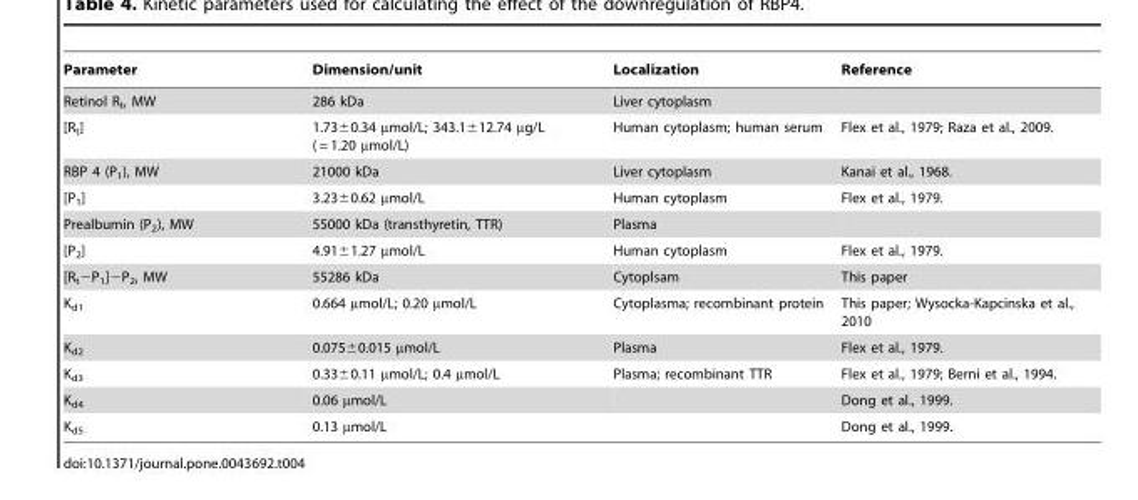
<table><thead><tr><td>Parameter</td><td>Dimension/unit</td><td>Localization</td><td>Reference</td></tr></thead><tbody><tr><td>Retinol R<sub>t</sub>, MW</td><td>286 kDa</td><td>Liver cytoplasm</td><td></td></tr><tr><td>[R<sub>t</sub>]</td><td>1.73±0.34 µmol/L; 343.1±12.74 µg/L ( = 1.20 µmol/L)</td><td>Human cytoplasm; human serum</td><td>Flex et al., 1979; Raza et al., 2009.</td></tr><tr><td>RBP 4 (P<sub>1</sub>), MW</td><td>21000 kDa</td><td>Liver cytoplasm</td><td>Kanai et al., 1968.</td></tr><tr><td>[P<sub>1</sub>]</td><td>3.23±0.62 µmol/L</td><td>Human cytoplasm</td><td>Flex et al., 1979.</td></tr><tr><td>Prealbumin (P<sub>2</sub>), MW</td><td>55000 kDa (transthyretin, TTR)</td><td>Plasma</td><td></td></tr><tr><td>[P<sub>2</sub>]</td><td>4.91±1.27 µmol/L</td><td>Human cytoplasm</td><td>Flex et al., 1979.</td></tr><tr><td>[R<sub>t</sub>−P<sub>1</sub>]−P<sub>2</sub>, MW</td><td>55286 kDa</td><td>Cytoplsam</td><td>This paper</td></tr><tr><td>K<sub>d1</sub></td><td>0.664 µmol/L; 0.20 µmol/L</td><td>Cytoplasma; recombinant protein</td><td>This paper; Wysocka-Kapcinska et al., 2010</td></tr><tr><td>K<sub>d2</sub></td><td>0.075±0.015 µmol/L</td><td>Plasma</td><td>Flex et al., 1979.</td></tr><tr><td>K<sub>d3</sub></td><td>0.33±0.11 µmol/L; 0.4 µmol/L</td><td>Plasma; recombinant TTR</td><td>Flex et al., 1979; Berni et al., 1994.</td></tr><tr><td>K<sub>d4</sub></td><td>0.06 µmol/L</td><td></td><td>Dong et al., 1999.</td></tr><tr><td>K<sub>d5</sub></td><td>0.13 µmol/L</td><td></td><td>Dong et al., 1999.</td></tr></tbody></table>